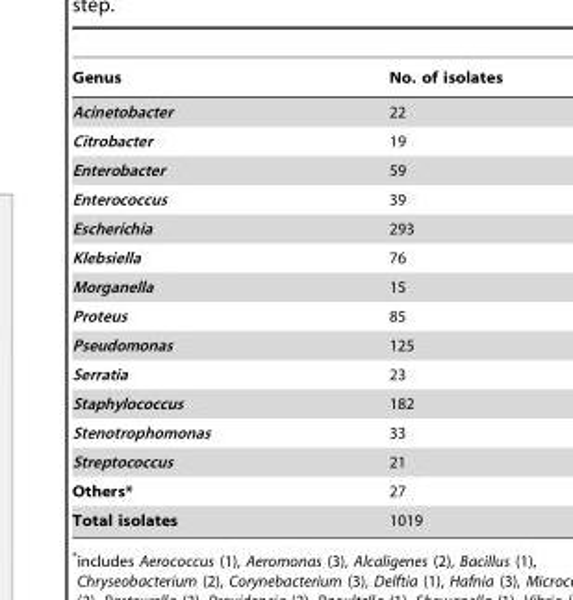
<table><thead><tr><td>Genus</td><td>No. of isolates</td></tr></thead><tbody><tr><td>Acinetobacter</td><td>22</td></tr><tr><td>Citrobacter</td><td>19</td></tr><tr><td>Enterobacter</td><td>59</td></tr><tr><td>Enterococcus</td><td>39</td></tr><tr><td>Escherichia</td><td>293</td></tr><tr><td>Klebsiella</td><td>76</td></tr><tr><td>Morganella</td><td>15</td></tr><tr><td>Proteus</td><td>85</td></tr><tr><td>Pseudomonas</td><td>125</td></tr><tr><td>Serratia</td><td>23</td></tr><tr><td>Staphylococcus</td><td>182</td></tr><tr><td>Stenotrophomonas</td><td>33</td></tr><tr><td>Streptococcus</td><td>21</td></tr><tr><td>Others*</td><td>27</td></tr><tr><td>Total isolates</td><td>1019</td></tr></tbody></table>